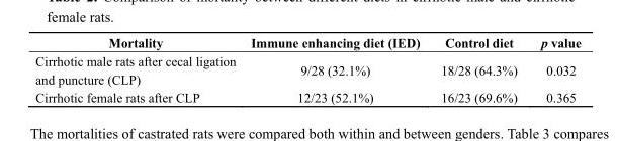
<table><thead><tr><td>Mortality</td><td>Immune enhancing diet (IED)</td><td>Control diet</td><td>p value</td></tr></thead><tbody><tr><td>Cirrhotic male rats after cecal ligation and puncture (CLP)</td><td>9/28 (32.1%)</td><td>18/28 (64.3%)</td><td>0.032</td></tr><tr><td>Cirrhotic female rats after CLP</td><td>12/23 (52.1%)</td><td>16/23 (69.6%)</td><td>0.365</td></tr></tbody></table>